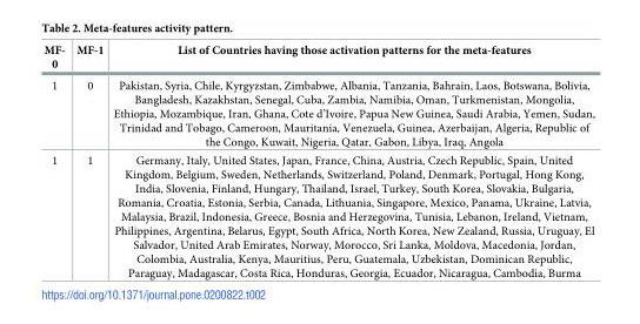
<table><thead><tr><td>MF- 0</td><td>MF-1</td><td>List of Countries having those activation patterns for the meta-features</td></tr></thead><tbody><tr><td>1</td><td>0</td><td>Pakistan, Syria, Chile, Kyrgyzstan, Zimbabwe, Albania, Tanzania, Bahrain, Laos, Botswana, Bolivia, Bangladesh, Kazakhstan, Senegal, Cuba, Zambia, Namibia, Oman, Turkmenistan, Mongolia, Ethiopia, Mozambique, Iran, Ghana, Cote d’Ivoire, Papua New Guinea, Saudi Arabia, Yemen, Sudan, Trinidad and Tobago, Cameroon, Mauritania, Venezuela, Guinea, Azerbaijan, Algeria, Republic of the Congo, Kuwait, Nigeria, Qatar, Gabon, Libya, Iraq, Angola</td></tr><tr><td>1</td><td>1</td><td>Germany, Italy, United States, Japan, France, China, Austria, Czech Republic, Spain, United Kingdom, Belgium, Sweden, Netherlands, Switzerland, Poland, Denmark, Portugal, Hong Kong, India, Slovenia, Finland, Hungary, Thailand, Israel, Turkey, South Korea, Slovakia, Bulgaria, Romania, Croatia, Estonia, Serbia, Canada, Lithuania, Singapore, Mexico, Panama, Ukraine, Latvia, Malaysia, Brazil, Indonesia, Greece, Bosnia and Herzegovina, Tunisia, Lebanon, Ireland, Vietnam, Philippines, Argentina, Belarus, Egypt, South Africa, North Korea, New Zealand, Russia, Uruguay, El Salvador, United Arab Emirates, Norway, Morocco, Sri Lanka, Moldova, Macedonia, Jordan, Colombia, Australia, Kenya, Mauritius, Peru, Guatemala, Uzbekistan, Dominican Republic, Paraguay, Madagascar, Costa Rica, Honduras, Georgia, Ecuador, Nicaragua, Cambodia, Burma</td></tr></tbody></table>